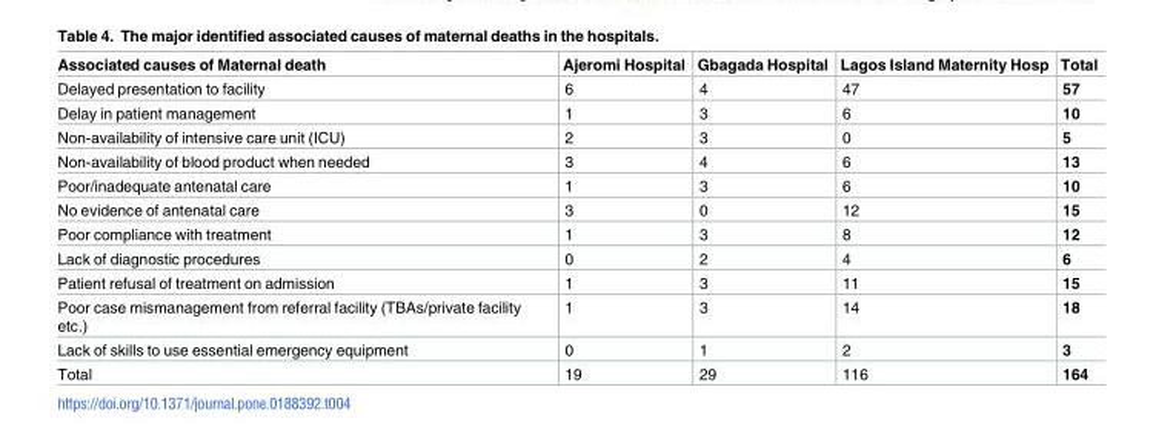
<table><thead><tr><td>Associated causes of Maternal death</td><td>Ajeromi Hospital</td><td>Gbagada Hospital</td><td>Lagos Island Maternity Hosp</td><td>Total</td></tr></thead><tbody><tr><td>Delayed presentation to facility</td><td>6</td><td>4</td><td>47</td><td>57</td></tr><tr><td>Delay in patient management</td><td>1</td><td>3</td><td>6</td><td>10</td></tr><tr><td>Non-availability of intensive care unit (ICU)</td><td>2</td><td>3</td><td>0</td><td>5</td></tr><tr><td>Non-availability of blood product when needed</td><td>3</td><td>4</td><td>6</td><td>13</td></tr><tr><td>Poor/inadequate antenatal care</td><td>1</td><td>3</td><td>6</td><td>10</td></tr><tr><td>No evidence of antenatal care</td><td>3</td><td>0</td><td>12</td><td>15</td></tr><tr><td>Poor compliance with treatment</td><td>1</td><td>3</td><td>8</td><td>12</td></tr><tr><td>Lack of diagnostic procedures</td><td>0</td><td>2</td><td>4</td><td>6</td></tr><tr><td>Patient refusal of treatment on admission</td><td>1</td><td>3</td><td>11</td><td>15</td></tr><tr><td>Poor case mismanagement from referral facility (TBAs/private facility etc.)</td><td>1</td><td>3</td><td>14</td><td>18</td></tr><tr><td>Lack of skills to use essential emergency equipment</td><td>0</td><td>1</td><td>2</td><td>3</td></tr><tr><td>Total</td><td>19</td><td>29</td><td>116</td><td>164</td></tr></tbody></table>